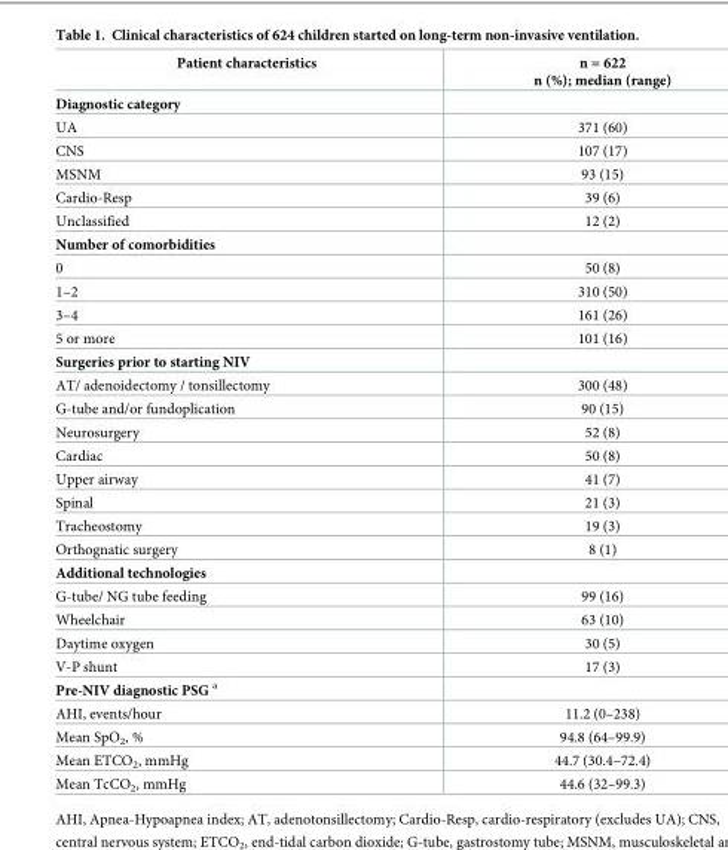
<table><thead><tr><td>Patient characteristics</td><td>n = 622 n (%); median (range)</td></tr></thead><tbody><tr><td colspan="2">Diagnostic category</td></tr><tr><td>UA</td><td>371 (60)</td></tr><tr><td>CNS</td><td>107 (17)</td></tr><tr><td>MSNM</td><td>93 (15)</td></tr><tr><td>Cardio-Resp</td><td>39 (6)</td></tr><tr><td>Unclassified</td><td>12 (2)</td></tr><tr><td colspan="2">Number of comorbidities</td></tr><tr><td>0</td><td>50 (8)</td></tr><tr><td>1–2</td><td>310 (50)</td></tr><tr><td>3–4</td><td>161 (26)</td></tr><tr><td>5 or more</td><td>101 (16)</td></tr><tr><td colspan="2">Surgeries prior to starting NIV</td></tr><tr><td>AT/ adenoidectomy / tonsillectomy</td><td>300 (48)</td></tr><tr><td>G-tube and/or fundoplication</td><td>90 (15)</td></tr><tr><td>Neurosurgery</td><td>52 (8)</td></tr><tr><td>Cardiac</td><td>50 (8)</td></tr><tr><td>Upper airway</td><td>41 (7)</td></tr><tr><td>Spinal</td><td>21 (3)</td></tr><tr><td>Tracheostomy</td><td>19 (3)</td></tr><tr><td>Orthognatic surgery</td><td>8 (1)</td></tr><tr><td colspan="2">Additional technologies</td></tr><tr><td>G-tube/ NG tube feeding</td><td>99 (16)</td></tr><tr><td>Wheelchair</td><td>63 (10)</td></tr><tr><td>Daytime oxygen</td><td>30 (5)</td></tr><tr><td>V-P shunt</td><td>17 (3)</td></tr><tr><td colspan="2">Pre-NIV diagnostic PSG <sup>a</sup></td></tr><tr><td>AHI, events/hour</td><td>11.2 (0–238)</td></tr><tr><td>Mean SpO<sub>2</sub>, %</td><td>94.8 (64–99.9)</td></tr><tr><td>Mean ETCO<sub>2</sub>, mmHg</td><td>44.7 (30.4–72.4)</td></tr><tr><td>Mean TcCO<sub>2</sub>, mmHg</td><td>44.6 (32–99.3)</td></tr></tbody></table>